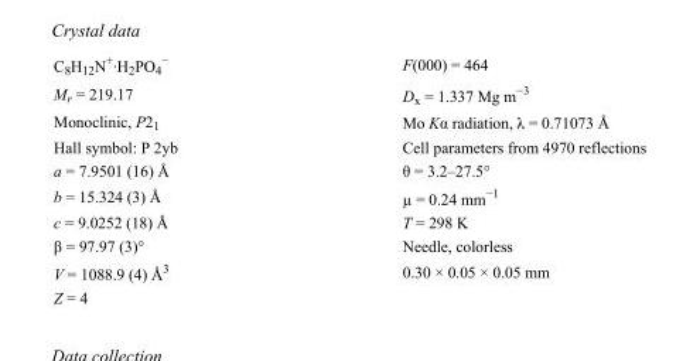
<table><tbody><tr><td>C<sub>8</sub>H<sub>12</sub>N<sup>+</sup>·H<sub>2</sub>PO<sub>4</sub> <sup>−</sup></td><td>F(000) = 464</td></tr><tr><td>M<sub>r</sub> = 219.17</td><td>D<sub>x</sub> = 1.337 Mg m<sup>−3</sup></td></tr><tr><td>Monoclinic, P2<sub>1</sub></td><td>Mo Kα radiation, λ = 0.71073 Å</td></tr><tr><td>Hall symbol: P 2yb</td><td>Cell parameters from 4970 reflections</td></tr><tr><td>a = 7.9501 (16) Å</td><td>θ = 3.2–27.5°</td></tr><tr><td>b = 15.324 (3) Å</td><td>µ = 0.24 mm<sup>−1</sup></td></tr><tr><td>c = 9.0252 (18) Å</td><td>T = 298 K</td></tr><tr><td>β = 97.97 (3)°</td><td>Needle, colorless</td></tr><tr><td>V = 1088.9 (4) Å<sup>3</sup></td><td>0.30 × 0.05 × 0.05 mm</td></tr><tr><td>Z = 4</td><td></td></tr></tbody></table>